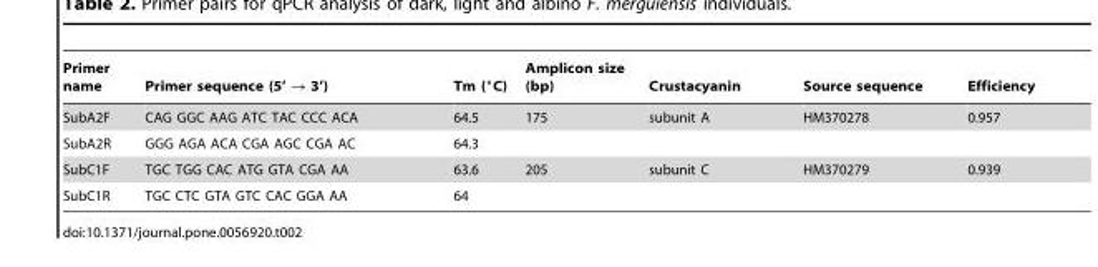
<table><thead><tr><td>Primer name</td><td>Primer sequence (5’ → 3’)</td><td>Tm (°C)</td><td>Amplicon size (bp)</td><td>Crustacyanin</td><td>Source sequence</td><td>Efficiency</td></tr></thead><tbody><tr><td>SubA2F</td><td>CAG GGC AAG ATC TAC CCC ACA</td><td>64.5</td><td>175</td><td>subunit A</td><td>HM370278</td><td>0.957</td></tr><tr><td>SubA2R</td><td>GGG AGA ACA CGA AGC CGA AC</td><td>64.3</td><td></td><td></td><td></td><td></td></tr><tr><td>SubC1F</td><td>TGC TGG CAC ATG GTA CGA AA</td><td>63.6</td><td>205</td><td>subunit C</td><td>HM370279</td><td>0.939</td></tr><tr><td>SubC1R</td><td>TGC CTC GTA GTC CAC GGA AA</td><td>64</td><td></td><td></td><td></td><td></td></tr></tbody></table>